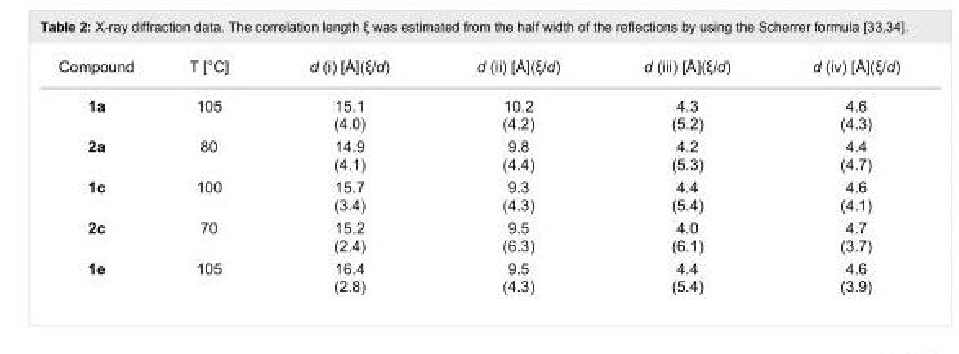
<table><tbody><tr><td>Compound</td><td>T [°C]</td><td>d (i) [Å](ξ/d)</td><td>d (ii) [Å](ξ/d)</td><td>d (iii) [Å](ξ/d)</td><td>d (iv) [Å](ξ/d)</td></tr><tr><td>1a</td><td>105</td><td>15.1 (4.0)</td><td>10.2 (4.2)</td><td>4.3 (5.2)</td><td>4.6 (4.3)</td></tr><tr><td>2a</td><td>80</td><td>14.9 (4.1)</td><td>9.8 (4.4)</td><td>4.2 (5.3)</td><td>4.4 (4.7)</td></tr><tr><td>1c</td><td>100</td><td>15.7 (3.4)</td><td>9.3 (4.3)</td><td>4.4 (5.4)</td><td>4.6 (4.1)</td></tr><tr><td>2c</td><td>70</td><td>15.2 (2.4)</td><td>9.5 (6.3)</td><td>4.0 (6.1)</td><td>4.7 (3.7)</td></tr><tr><td>1e</td><td>105</td><td>16.4 (2.8)</td><td>9.5 (4.3)</td><td>4.4 (5.4)</td><td>4.6 (3.9)</td></tr></tbody></table>